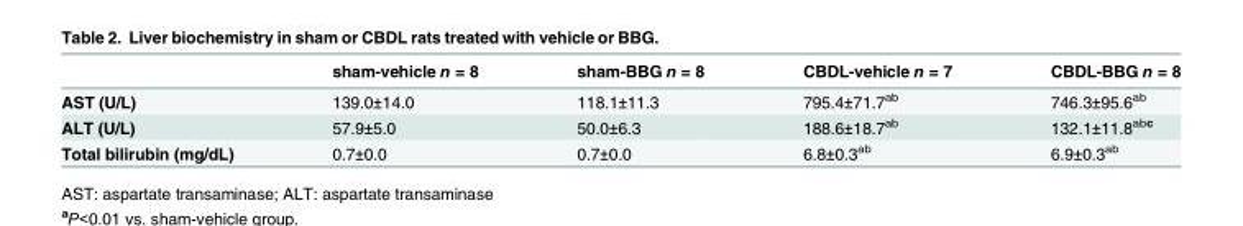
<table><thead><tr><td></td><td>sham-vehicle n = 8</td><td>sham-BBG n = 8</td><td>CBDL-vehicle n = 7</td><td>CBDL-BBG n = 8</td></tr></thead><tbody><tr><td>AST (U/L)</td><td>139.0±14.0</td><td>118.1±11.3</td><td>795.4±71.7<sup>ab</sup></td><td>746.3±95.6<sup>ab</sup></td></tr><tr><td>ALT (U/L)</td><td>57.9±5.0</td><td>50.0±6.3</td><td>188.6±18.7<sup>ab</sup></td><td>132.1±11.8<sup>abc</sup></td></tr><tr><td>Total bilirubin (mg/dL)</td><td>0.7±0.0</td><td>0.7±0.0</td><td>6.8±0.3<sup>ab</sup></td><td>6.9±0.3<sup>ab</sup></td></tr></tbody></table>